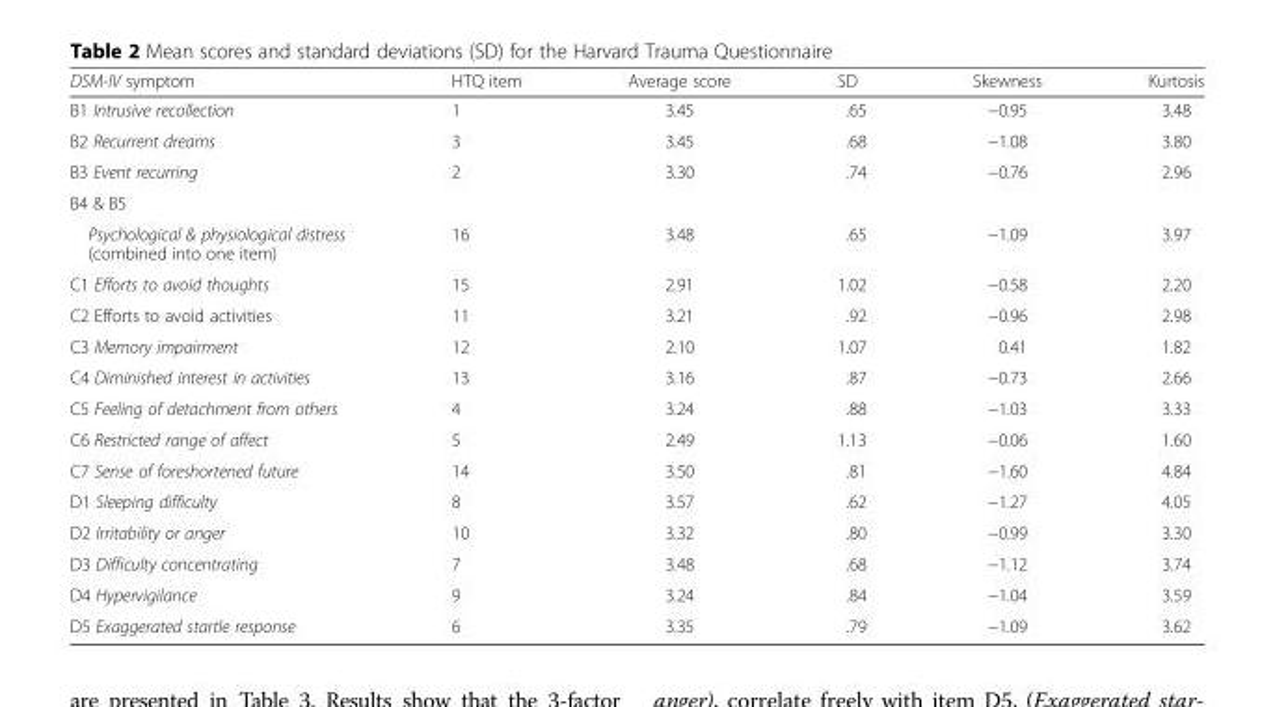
<table><thead><tr><td>DSM-IV symptom</td><td>HTQ item</td><td>Average score</td><td>SD</td><td>Skewness</td><td>Kurtosis</td></tr></thead><tbody><tr><td>B1 Intrusive recollection</td><td>1</td><td>3.45</td><td>.65</td><td>−0.95</td><td>3.48</td></tr><tr><td>B2 Recurrent dreams</td><td>3</td><td>3.45</td><td>.68</td><td>−1.08</td><td>3.80</td></tr><tr><td>B3 Event recurring</td><td>2</td><td>3.30</td><td>.74</td><td>−0.76</td><td>2.96</td></tr><tr><td colspan="6">B4 &amp; B5</td></tr><tr><td>Psychological &amp; physiological distress (combined into one item)</td><td>16</td><td>3.48</td><td>.65</td><td>−1.09</td><td>3.97</td></tr><tr><td>C1 Efforts to avoid thoughts</td><td>15</td><td>2.91</td><td>1.02</td><td>−0.58</td><td>2.20</td></tr><tr><td>C2 Efforts to avoid activities</td><td>11</td><td>3.21</td><td>.92</td><td>−0.96</td><td>2.98</td></tr><tr><td>C3 Memory impairment</td><td>12</td><td>2.10</td><td>1.07</td><td>0.41</td><td>1.82</td></tr><tr><td>C4 Diminished interest in activities</td><td>13</td><td>3.16</td><td>.87</td><td>−0.73</td><td>2.66</td></tr><tr><td>C5 Feeling of detachment from others</td><td>4</td><td>3.24</td><td>.88</td><td>−1.03</td><td>3.33</td></tr><tr><td>C6 Restricted range of affect</td><td>5</td><td>2.49</td><td>1.13</td><td>−0.06</td><td>1.60</td></tr><tr><td>C7 Sense of foreshortened future</td><td>14</td><td>3.50</td><td>.81</td><td>−1.60</td><td>4.84</td></tr><tr><td>D1 Sleeping difficulty</td><td>8</td><td>3.57</td><td>.62</td><td>−1.27</td><td>4.05</td></tr><tr><td>D2 Irritability or anger</td><td>10</td><td>3.32</td><td>.80</td><td>−0.99</td><td>3.30</td></tr><tr><td>D3 Difficulty concentrating</td><td>7</td><td>3.48</td><td>.68</td><td>−1.12</td><td>3.74</td></tr><tr><td>D4 Hypervigilance</td><td>9</td><td>3.24</td><td>.84</td><td>−1.04</td><td>3.59</td></tr><tr><td>D5 Exaggerated startle response</td><td>6</td><td>3.35</td><td>.79</td><td>−1.09</td><td>3.62</td></tr></tbody></table>